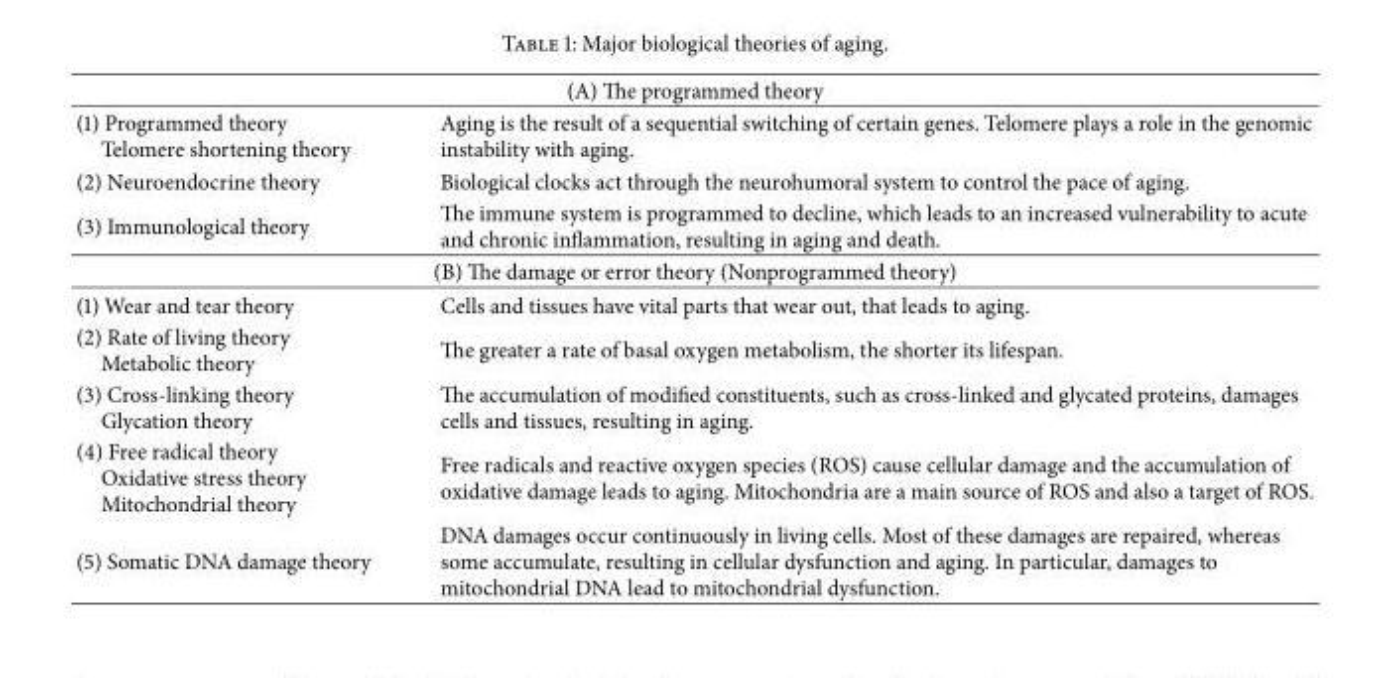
<table><thead><tr><td colspan="2">(A) The programmed theory</td></tr><tr><td>(1) Programmed theory Telomere shortening theory</td><td>Aging is the result of a sequential switching of certain genes. Telomere plays a role in the genomic instability with aging.</td></tr></thead><tbody><tr><td>(2) Neuroendocrine theory</td><td>Biological clocks act through the neurohumoral system to control the pace of aging.</td></tr><tr><td>(3) Immunological theory</td><td>The immune system is programmed to decline, which leads to an increased vulnerability to acute and chronic inflammation, resulting in aging and death.</td></tr><tr><td colspan="2">(B) The damage or error theory (Nonprogrammed theory)</td></tr><tr><td>(1) Wear and tear theory</td><td>Cells and tissues have vital parts that wear out, that leads to aging.</td></tr><tr><td>(2) Rate of living theory Metabolic theory</td><td>The greater a rate of basal oxygen metabolism, the shorter its lifespan.</td></tr><tr><td>(3) Cross-linking theory Glycation theory</td><td>The accumulation of modified constituents, such as cross-linked and glycated proteins, damages cells and tissues, resulting in aging.</td></tr><tr><td>(4) Free radical theory Oxidative stress theory Mitochondrial theory</td><td>Free radicals and reactive oxygen species (ROS) cause cellular damage and the accumulation of oxidative damage leads to aging. Mitochondria are a main source of ROS and also a target of ROS.</td></tr><tr><td>(5) Somatic DNA damage theory</td><td>DNA damages occur continuously in living cells. Most of these damages are repaired, whereas some accumulate, resulting in cellular dysfunction and aging. In particular, damages to mitochondrial DNA lead to mitochondrial dysfunction.</td></tr></tbody></table>